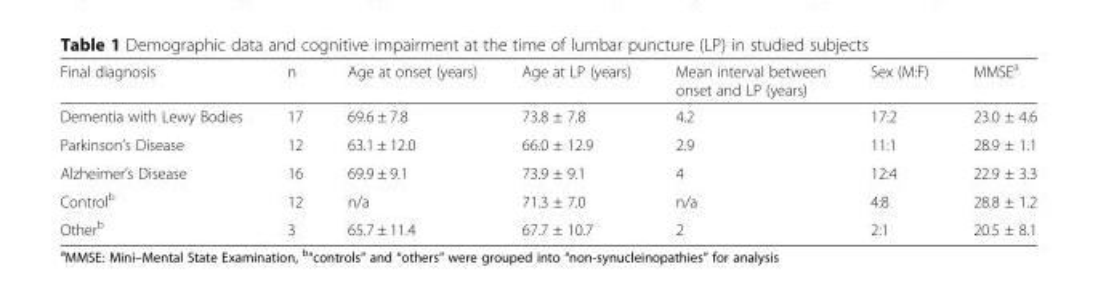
<table><thead><tr><td>Final diagnosis</td><td>n</td><td>Age at onset (years)</td><td>Age at LP (years)</td><td>Mean interval between onset and LP (years)</td><td>Sex (M:F)</td><td>MMSE<sup>a</sup></td></tr></thead><tbody><tr><td>Dementia with Lewy Bodies</td><td>17</td><td>69.6 ± 7.8</td><td>73.8 ± 7.8</td><td>4.2</td><td>17:2</td><td>23.0 ± 4.6</td></tr><tr><td>Parkinson’s Disease</td><td>12</td><td>63.1 ± 12.0</td><td>66.0 ± 12.9</td><td>2.9</td><td>11:1</td><td>28.9 ± 1.1</td></tr><tr><td>Alzheimer’s Disease</td><td>16</td><td>69.9 ± 9.1</td><td>73.9 ± 9.1</td><td>4</td><td>12:4</td><td>22.9 ± 3.3</td></tr><tr><td>Control<sup>b</sup></td><td>12</td><td>n/a</td><td>71.3 ± 7.0</td><td>n/a</td><td>4:8</td><td>28.8 ± 1.2</td></tr><tr><td>Other<sup>b</sup></td><td>3</td><td>65.7 ± 11.4</td><td>67.7 ± 10.7</td><td>2</td><td>2:1</td><td>20.5 ± 8.1</td></tr></tbody></table>